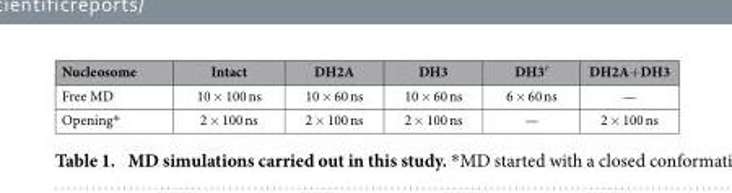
<table><thead><tr><td>Nucleosome</td><td>Intact</td><td>DH2A</td><td>DH3</td><td>DH3′</td><td>DH2A+ DH3</td></tr></thead><tbody><tr><td>Free MD</td><td>10 × 100 ns</td><td>10 × 60 ns</td><td>10 × 60 ns</td><td>6 × 60 ns</td><td>—</td></tr><tr><td>Opening*</td><td>2 × 100 ns</td><td>2 × 100 ns</td><td>2 × 100 ns</td><td>—</td><td>2 × 100 ns</td></tr></tbody></table>